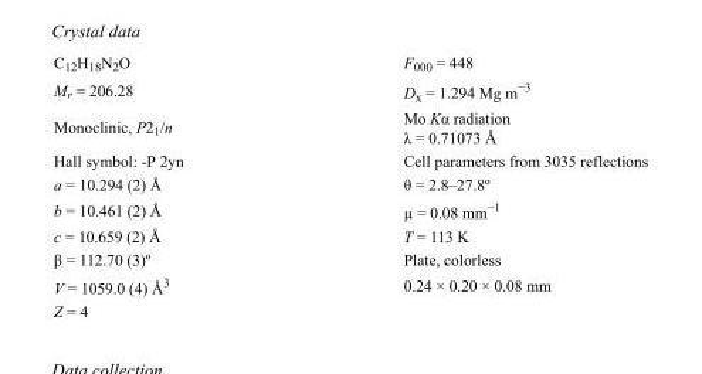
<table><tbody><tr><td>C<sub>12</sub>H<sub>18</sub>N<sub>2</sub>O</td><td>F000 = 448</td></tr><tr><td>M<sub>r</sub> = 206.28</td><td>D<sub>x</sub> = 1.294 Mg m<sup>−3</sup></td></tr><tr><td>Monoclinic, P2<sub>1</sub>/n</td><td>Mo Kα radiation λ = 0.71073 Å</td></tr><tr><td>Hall symbol: -P 2yn</td><td>Cell parameters from 3035 reflections</td></tr><tr><td>a = 10.294 (2) Å</td><td>θ = 2.8–27.8º</td></tr><tr><td>b = 10.461 (2) Å</td><td>µ = 0.08 mm<sup>−1</sup></td></tr><tr><td>c = 10.659 (2) Å</td><td>T = 113 K</td></tr><tr><td>β = 112.70 (3)º</td><td>Plate, colorless</td></tr><tr><td>V = 1059.0 (4) Å<sup>3</sup></td><td>0.24 × 0.20 × 0.08 mm</td></tr><tr><td>Z = 4</td><td></td></tr></tbody></table>